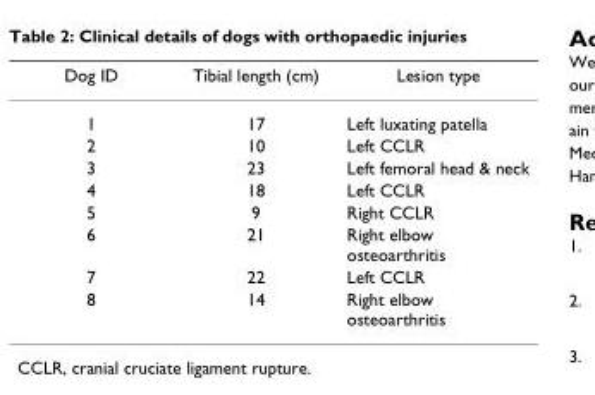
<table><thead><tr><td>Dog ID</td><td>Tibial length (cm)</td><td>Lesion type</td></tr></thead><tbody><tr><td>1</td><td>17</td><td>Left luxating patella</td></tr><tr><td>2</td><td>10</td><td>Left CCLR</td></tr><tr><td>3</td><td>23</td><td>Left femoral head &amp; neck</td></tr><tr><td>4</td><td>18</td><td>Left CCLR</td></tr><tr><td>5</td><td>9</td><td>Right CCLR</td></tr><tr><td>6</td><td>21</td><td>Right elbow osteoarthritis</td></tr><tr><td>7</td><td>22</td><td>Left CCLR</td></tr><tr><td>8</td><td>14</td><td>Right elbow osteoarthritis</td></tr></tbody></table>